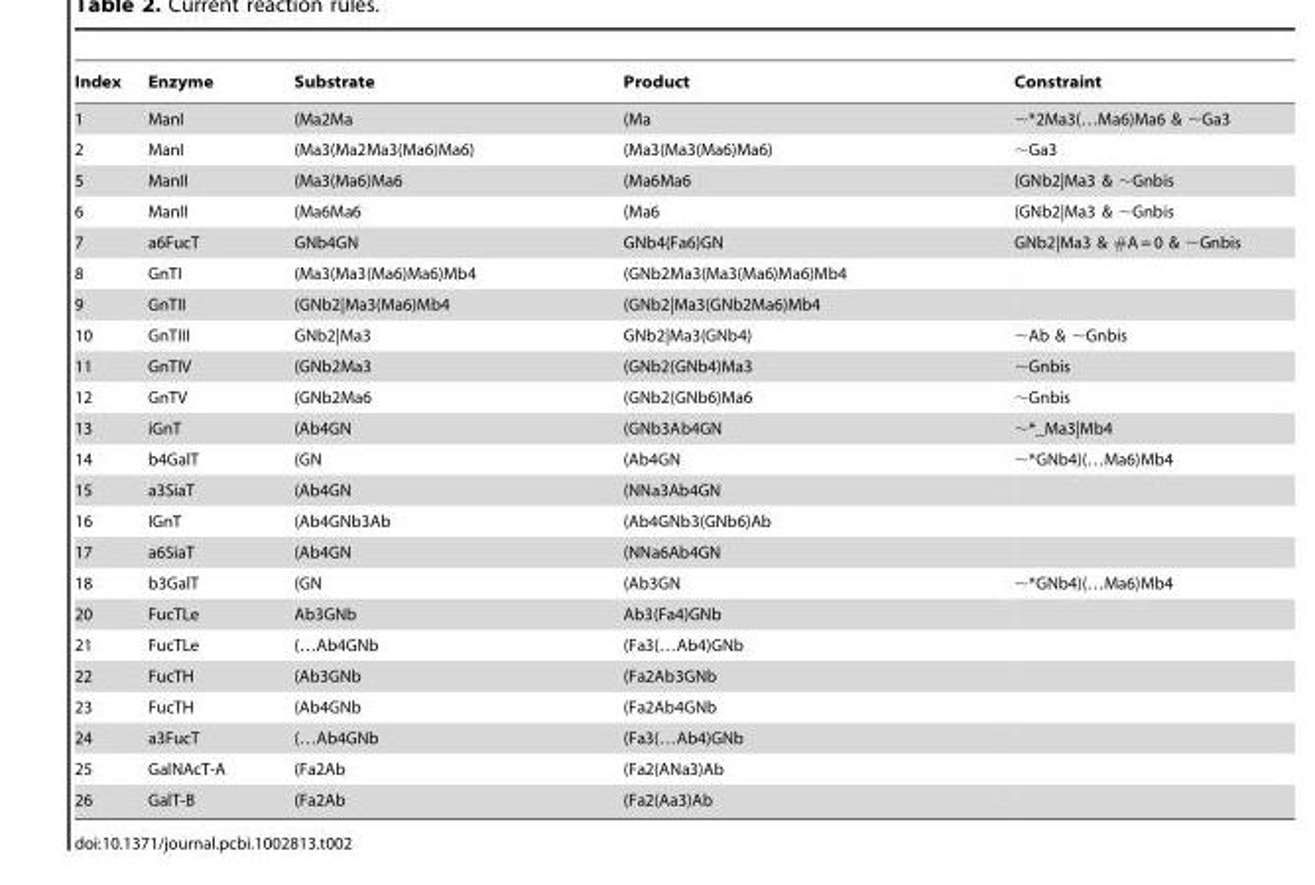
<table><thead><tr><td>Index</td><td>Enzyme</td><td>Substrate</td><td>Product</td><td>Constraint</td></tr></thead><tbody><tr><td>1</td><td>ManI</td><td>(Ma2Ma</td><td>(Ma</td><td>∼*2Ma3(…Ma6)Ma6 &amp; ∼Ga3</td></tr><tr><td>2</td><td>ManI</td><td>(Ma3(Ma2Ma3(Ma6)Ma6)</td><td>(Ma3(Ma3(Ma6)Ma6)</td><td>∼Ga3</td></tr><tr><td>5</td><td>ManII</td><td>(Ma3(Ma6)Ma6</td><td>(Ma6Ma6</td><td>(GNb2|Ma3 &amp; ∼Gnbis</td></tr><tr><td>6</td><td>ManII</td><td>(Ma6Ma6</td><td>(Ma6</td><td>(GNb2|Ma3 &amp; ∼Gnbis</td></tr><tr><td>7</td><td>a6FucT</td><td>GNb4GN</td><td>GNb4(Fa6)GN</td><td>GNb2|Ma3 &amp; #A = 0 &amp; ∼Gnbis</td></tr><tr><td>8</td><td>GnTI</td><td>(Ma3(Ma3(Ma6)Ma6)Mb4</td><td>(GNb2Ma3(Ma3(Ma6)Ma6)Mb4</td><td></td></tr><tr><td>9</td><td>GnTII</td><td>(GNb2|Ma3(Ma6)Mb4</td><td>(GNb2|Ma3(GNb2Ma6)Mb4</td><td></td></tr><tr><td>10</td><td>GnTIII</td><td>GNb2|Ma3</td><td>GNb2|Ma3(GNb4)</td><td>∼Ab &amp; ∼Gnbis</td></tr><tr><td>11</td><td>GnTIV</td><td>(GNb2Ma3</td><td>(GNb2(GNb4)Ma3</td><td>∼Gnbis</td></tr><tr><td>12</td><td>GnTV</td><td>(GNb2Ma6</td><td>(GNb2(GNb6)Ma6</td><td>∼Gnbis</td></tr><tr><td>13</td><td>iGnT</td><td>(Ab4GN</td><td>(GNb3Ab4GN</td><td>∼*_Ma3|Mb4</td></tr><tr><td>14</td><td>b4GalT</td><td>(GN</td><td>(Ab4GN</td><td>∼*GNb4)(…Ma6)Mb4</td></tr><tr><td>15</td><td>a3SiaT</td><td>(Ab4GN</td><td>(NNa3Ab4GN</td><td></td></tr><tr><td>16</td><td>IGnT</td><td>(Ab4GNb3Ab</td><td>(Ab4GNb3(GNb6)Ab</td><td></td></tr><tr><td>17</td><td>a6SiaT</td><td>(Ab4GN</td><td>(NNa6Ab4GN</td><td></td></tr><tr><td>18</td><td>b3GalT</td><td>(GN</td><td>(Ab3GN</td><td>∼*GNb4)(…Ma6)Mb4</td></tr><tr><td>20</td><td>FucTLe</td><td>Ab3GNb</td><td>Ab3(Fa4)GNb</td><td></td></tr><tr><td>21</td><td>FucTLe</td><td>(…Ab4GNb</td><td>(Fa3(…Ab4)GNb</td><td></td></tr><tr><td>22</td><td>FucTH</td><td>(Ab3GNb</td><td>(Fa2Ab3GNb</td><td></td></tr><tr><td>23</td><td>FucTH</td><td>(Ab4GNb</td><td>(Fa2Ab4GNb</td><td></td></tr><tr><td>24</td><td>a3FucT</td><td>(…Ab4GNb</td><td>(Fa3(…Ab4)GNb</td><td></td></tr><tr><td>25</td><td>GalNAcT-A</td><td>(Fa2Ab</td><td>(Fa2(ANa3)Ab</td><td></td></tr><tr><td>26</td><td>GalT-B</td><td>(Fa2Ab</td><td>(Fa2(Aa3)Ab</td><td></td></tr></tbody></table>